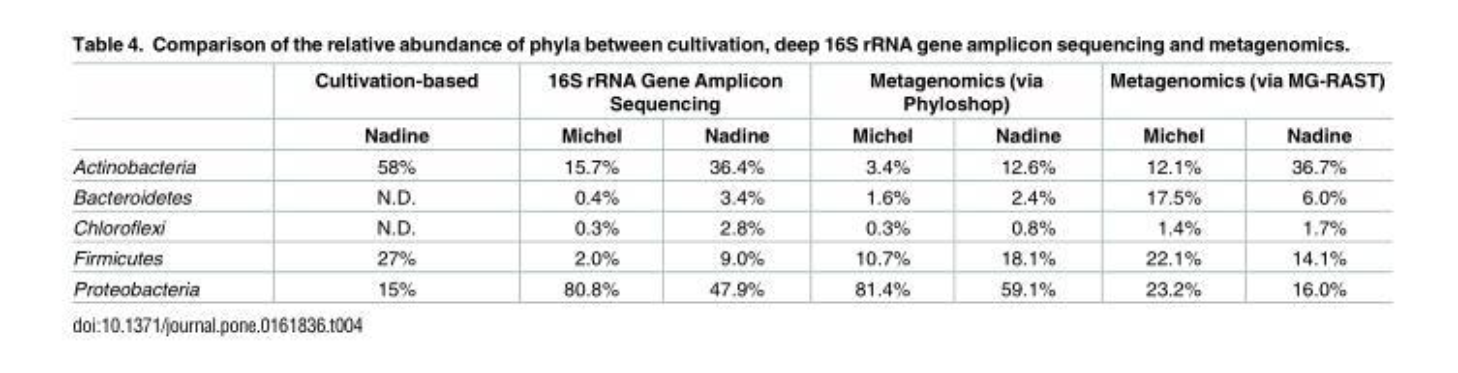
<table><thead><tr><td rowspan="2"></td><td rowspan="2">Cultivation-based Nadine</td><td colspan="2">16S rRNA Gene Amplicon Sequencing</td><td colspan="2">Metagenomics (via Phyloshop)</td><td colspan="2">Metagenomics (via MG-RAST)</td></tr><tr><td>Michel</td><td>Nadine</td><td>Michel</td><td>Nadine</td><td>Michel</td><td>Nadine</td></tr></thead><tbody><tr><td>Actinobacteria</td><td>58%</td><td>15.7%</td><td>36.4%</td><td>3.4%</td><td>12.6%</td><td>12.1%</td><td>36.7%</td></tr><tr><td>Bacteroidetes</td><td>N.D.</td><td>0.4%</td><td>3.4%</td><td>1.6%</td><td>2.4%</td><td>17.5%</td><td>6.0%</td></tr><tr><td>Chloroflexi</td><td>N.D.</td><td>0.3%</td><td>2.8%</td><td>0.3%</td><td>0.8%</td><td>1.4%</td><td>1.7%</td></tr><tr><td>Firmicutes</td><td>27%</td><td>2.0%</td><td>9.0%</td><td>10.7%</td><td>18.1%</td><td>22.1%</td><td>14.1%</td></tr><tr><td>Proteobacteria</td><td>15%</td><td>80.8%</td><td>47.9%</td><td>81.4%</td><td>59.1%</td><td>23.2%</td><td>16.0%</td></tr></tbody></table>